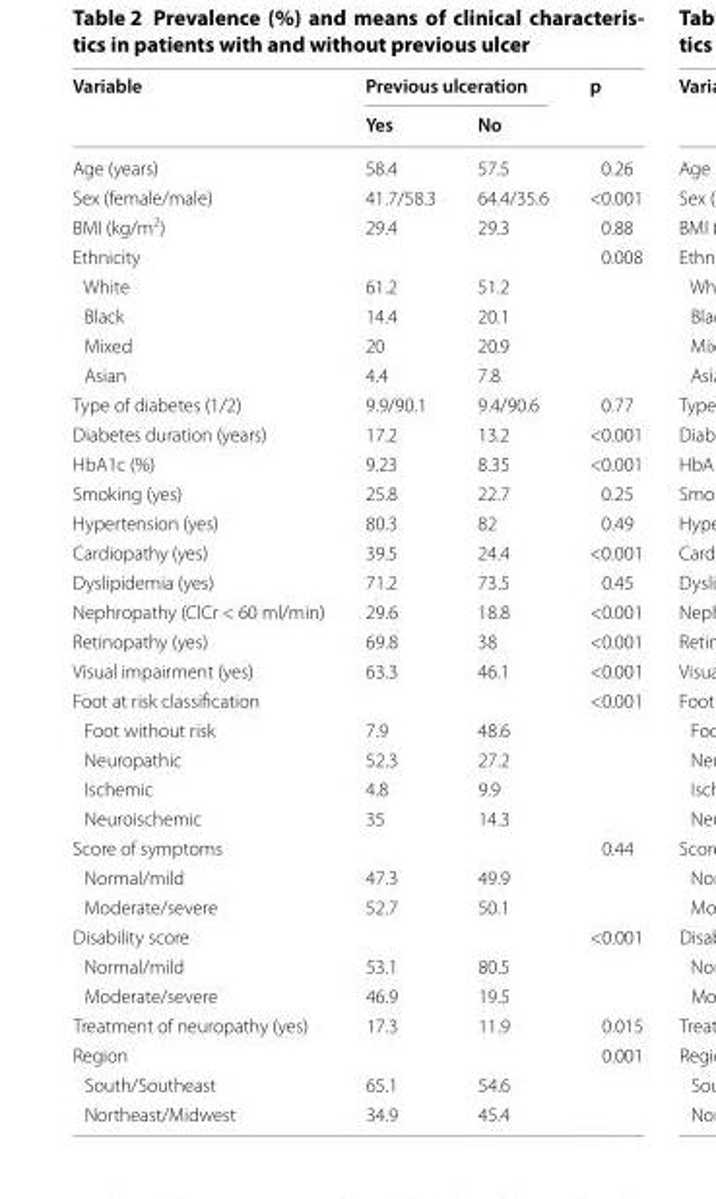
<table><thead><tr><td rowspan="2">Variable</td><td colspan="2">Previous ulceration</td><td rowspan="2">p</td></tr><tr><td>Yes</td><td>No</td></tr></thead><tbody><tr><td>Age (years)</td><td>58.4</td><td>57.5</td><td>0.26</td></tr><tr><td>Sex (female/male)</td><td>41.7/58.3</td><td>64.4/35.6</td><td>&lt;0.001</td></tr><tr><td>BMI (kg/m<sup>2</sup>)</td><td>29.4</td><td>29.3</td><td>0.88</td></tr><tr><td>Ethnicity</td><td></td><td></td><td>0.008</td></tr><tr><td>White</td><td>61.2</td><td>51.2</td><td></td></tr><tr><td>Black</td><td>14.4</td><td>20.1</td><td></td></tr><tr><td>Mixed</td><td>20</td><td>20.9</td><td></td></tr><tr><td>Asian</td><td>4.4</td><td>7.8</td><td></td></tr><tr><td>Type of diabetes (1/2)</td><td>9.9/90.1</td><td>9.4/90.6</td><td>0.77</td></tr><tr><td>Diabetes duration (years)</td><td>17.2</td><td>13.2</td><td>&lt;0.001</td></tr><tr><td>HbA1c (%)</td><td>9.23</td><td>8.35</td><td>&lt;0.001</td></tr><tr><td>Smoking (yes)</td><td>25.8</td><td>22.7</td><td>0.25</td></tr><tr><td>Hypertension (yes)</td><td>80.3</td><td>82</td><td>0.49</td></tr><tr><td>Cardiopathy (yes)</td><td>39.5</td><td>24.4</td><td>&lt;0.001</td></tr><tr><td>Dyslipidemia (yes)</td><td>71.2</td><td>73.5</td><td>0.45</td></tr><tr><td>Nephropathy (ClCr &lt; 60 ml/min)</td><td>29.6</td><td>18.8</td><td>&lt;0.001</td></tr><tr><td>Retinopathy (yes)</td><td>69.8</td><td>38</td><td>&lt;0.001</td></tr><tr><td>Visual impairment (yes)</td><td>63.3</td><td>46.1</td><td>&lt;0.001</td></tr><tr><td>Foot at risk classification</td><td></td><td></td><td>&lt;0.001</td></tr><tr><td>Foot without risk</td><td>7.9</td><td>48.6</td><td></td></tr><tr><td>Neuropathic</td><td>52.3</td><td>27.2</td><td></td></tr><tr><td>Ischemic</td><td>4.8</td><td>9.9</td><td></td></tr><tr><td>Neuroischemic</td><td>35</td><td>14.3</td><td></td></tr><tr><td>Score of symptoms</td><td></td><td></td><td>0.44</td></tr><tr><td>Normal/mild</td><td>47.3</td><td>49.9</td><td></td></tr><tr><td>Moderate/severe</td><td>52.7</td><td>50.1</td><td></td></tr><tr><td>Disability score</td><td></td><td></td><td>&lt;0.001</td></tr><tr><td>Normal/mild</td><td>53.1</td><td>80.5</td><td></td></tr><tr><td>Moderate/severe</td><td>46.9</td><td>19.5</td><td></td></tr><tr><td>Treatment of neuropathy (yes)</td><td>17.3</td><td>11.9</td><td>0.015</td></tr><tr><td>Region</td><td></td><td></td><td>0.001</td></tr><tr><td>South/Southeast</td><td>65.1</td><td>54.6</td><td></td></tr><tr><td>Northeast/Midwest</td><td>34.9</td><td>45.4</td><td></td></tr></tbody></table>